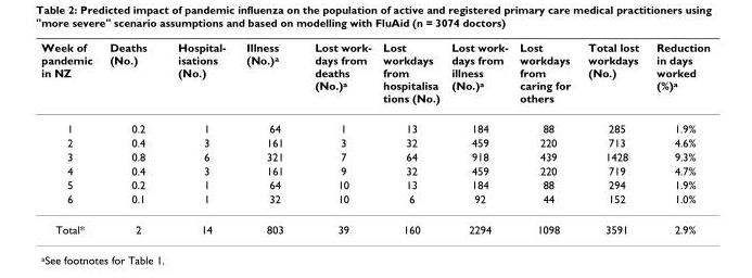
<table><thead><tr><td>Week of pandemic in NZ</td><td>Deaths (No.)</td><td>Hospital- isations (No.)</td><td>Illness (No.)<sup>a</sup></td><td>Lost work- days from deaths (No.)a</td><td>Lost workdays from hospitalisa tions (No.)</td><td>Lost work- days from illness (No.)a</td><td>Lost workdays from caring for others</td><td>Total lost workdays (No.)</td><td>Reduction in days worked (%)<sup>a</sup></td></tr></thead><tbody><tr><td>1</td><td>0.2</td><td>1</td><td>64</td><td>1</td><td>13</td><td>184</td><td>88</td><td>285</td><td>1.9%</td></tr><tr><td>2</td><td>0.4</td><td>3</td><td>161</td><td>3</td><td>32</td><td>459</td><td>220</td><td>713</td><td>4.6%</td></tr><tr><td>3</td><td>0.8</td><td>6</td><td>321</td><td>7</td><td>64</td><td>918</td><td>439</td><td>1428</td><td>9.3%</td></tr><tr><td>4</td><td>0.4</td><td>3</td><td>161</td><td>9</td><td>32</td><td>459</td><td>220</td><td>719</td><td>4.7%</td></tr><tr><td>5</td><td>0.2</td><td>1</td><td>64</td><td>10</td><td>13</td><td>184</td><td>88</td><td>294</td><td>1.9%</td></tr><tr><td>6</td><td>0.1</td><td>1</td><td>32</td><td>10</td><td>6</td><td>92</td><td>44</td><td>152</td><td>1.0%</td></tr><tr><td>Total*</td><td>2</td><td>14</td><td>803</td><td>39</td><td>160</td><td>2294</td><td>1098</td><td>3591</td><td>2.9%</td></tr></tbody></table>